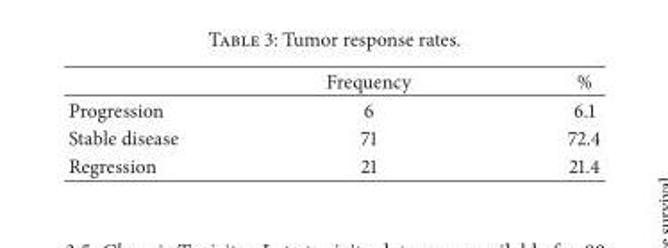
<table><thead><tr><td></td><td>Frequency</td><td>%</td></tr></thead><tbody><tr><td>Progression</td><td>6</td><td>6.1</td></tr><tr><td>Stable disease</td><td>71</td><td>72.4</td></tr><tr><td>Regression</td><td>21</td><td>21.4</td></tr></tbody></table>